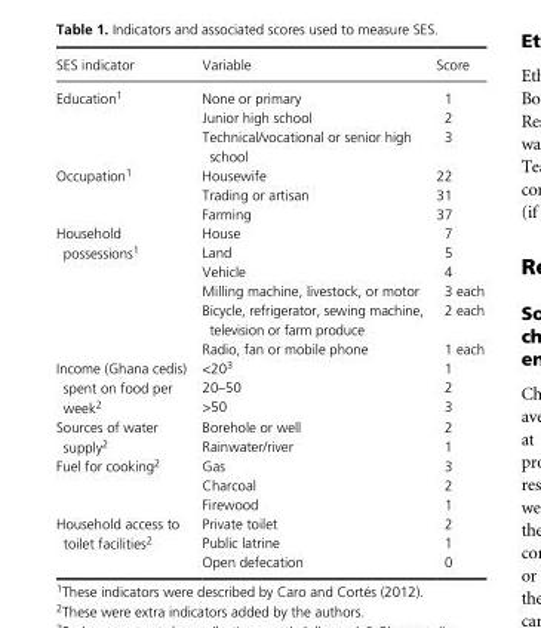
<table><thead><tr><td>SES indicator</td><td>Variable</td><td>Score</td></tr></thead><tbody><tr><td rowspan="3">Education1</td><td>None or primary</td><td>1</td></tr><tr><td>Junior high school</td><td>2</td></tr><tr><td>Technical/vocational or senior high school</td><td>3</td></tr><tr><td rowspan="3">Occupation1</td><td>Housewife</td><td>22</td></tr><tr><td>Trading or artisan</td><td>31</td></tr><tr><td>Farming</td><td>37</td></tr><tr><td rowspan="6">Household possessions1</td><td>House</td><td>7</td></tr><tr><td>Land</td><td>5</td></tr><tr><td>Vehicle</td><td>4</td></tr><tr><td>Milling machine, livestock, or motor</td><td>3 each</td></tr><tr><td>Bicycle, refrigerator, sewing machine, television or farm produce</td><td>2 each</td></tr><tr><td>Radio, fan or mobile phone</td><td>1 each</td></tr><tr><td rowspan="3">Income (Ghana cedis) spent on food per week2</td><td>&lt;203</td><td>1</td></tr><tr><td>20–50</td><td>2</td></tr><tr><td>&gt;50</td><td>3</td></tr><tr><td rowspan="2">Sources of water supply2</td><td>Borehole or well</td><td>2</td></tr><tr><td>Rainwater/river</td><td>1</td></tr><tr><td rowspan="3">Fuel for cooking2</td><td>Gas</td><td>3</td></tr><tr><td>Charcoal</td><td>2</td></tr><tr><td>Firewood</td><td>1</td></tr><tr><td rowspan="3">Household access to toilet facilities2</td><td>Private toilet</td><td>2</td></tr><tr><td>Public latrine</td><td>1</td></tr><tr><td>Open defecation</td><td>0</td></tr></tbody></table>